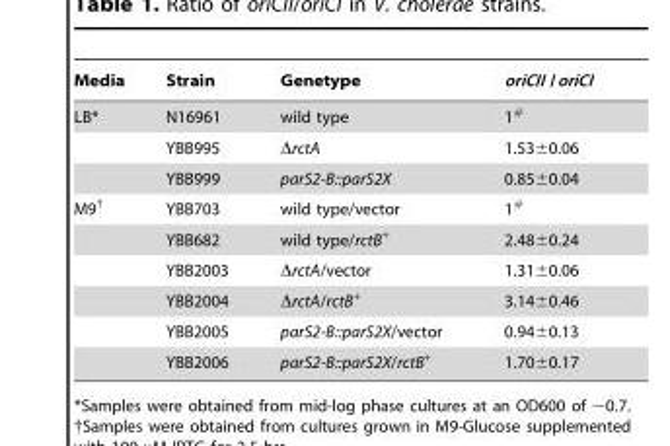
<table><thead><tr><td>Media</td><td>Strain</td><td>Genetype</td><td>oriCII /oriCI</td></tr></thead><tbody><tr><td rowspan="3">LB*</td><td>N16961</td><td>wild type</td><td>1#</td></tr><tr><td>YBB995</td><td>ΔrctA</td><td>1.53±0.06</td></tr><tr><td>YBB999</td><td>parS2-B::parS2X</td><td>0.85±0.04</td></tr><tr><td rowspan="6">M9†</td><td>YBB703</td><td>wild type/vector</td><td>1#</td></tr><tr><td>YBB682</td><td>wild type/rctB<sup>+</sup></td><td>2.48±0.24</td></tr><tr><td>YBB2003</td><td>ΔrctA/vector</td><td>1.31±0.06</td></tr><tr><td>YBB2004</td><td>ΔrctA/rctB<sup>+</sup></td><td>3.14±0.46</td></tr><tr><td>YBB2005</td><td>parS2-B::parS2X/vector</td><td>0.94±0.13</td></tr><tr><td>YBB2006</td><td>parS2-B::parS2X/rctB<sup>+</sup></td><td>1.70±0.17</td></tr></tbody></table>